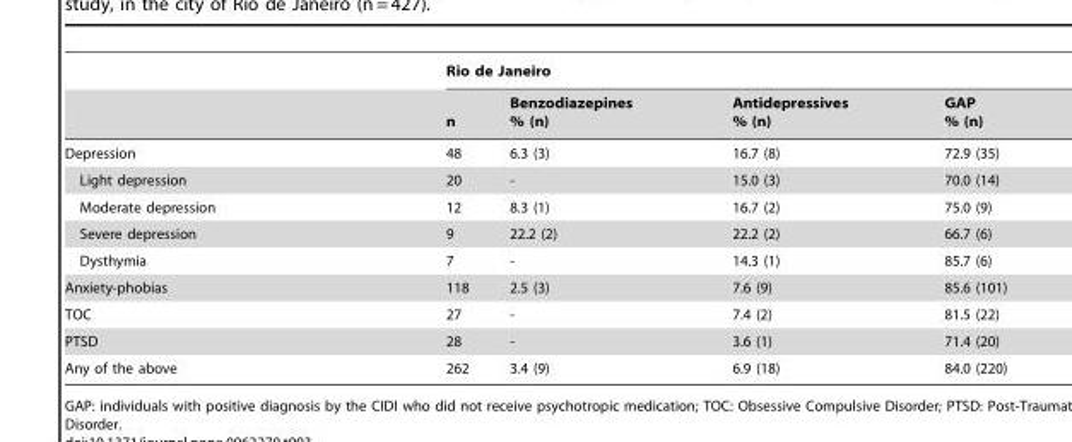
<table><thead><tr><td rowspan="2"></td><td colspan="4">Rio de Janeiro</td></tr><tr><td>n</td><td>Benzodiazepines % (n)</td><td>Antidepressives % (n)</td><td>GAP % (n)</td></tr></thead><tbody><tr><td>Depression</td><td>48</td><td>6.3 (3)</td><td>16.7 (8)</td><td>72.9 (35)</td></tr><tr><td>Light depression</td><td>20</td><td>-</td><td>15.0 (3)</td><td>70.0 (14)</td></tr><tr><td>Moderate depression</td><td>12</td><td>8.3 (1)</td><td>16.7 (2)</td><td>75.0 (9)</td></tr><tr><td>Severe depression</td><td>9</td><td>22.2 (2)</td><td>22.2 (2)</td><td>66.7 (6)</td></tr><tr><td>Dysthymia</td><td>7</td><td>-</td><td>14.3 (1)</td><td>85.7 (6)</td></tr><tr><td>Anxiety-phobias</td><td>118</td><td>2.5 (3)</td><td>7.6 (9)</td><td>85.6 (101)</td></tr><tr><td>TOC</td><td>27</td><td>-</td><td>7.4 (2)</td><td>81.5 (22)</td></tr><tr><td>PTSD</td><td>28</td><td>-</td><td>3.6 (1)</td><td>71.4 (20)</td></tr><tr><td>Any of the above</td><td>262</td><td>3.4 (9)</td><td>6.9 (18)</td><td>84.0 (220)</td></tr></tbody></table>